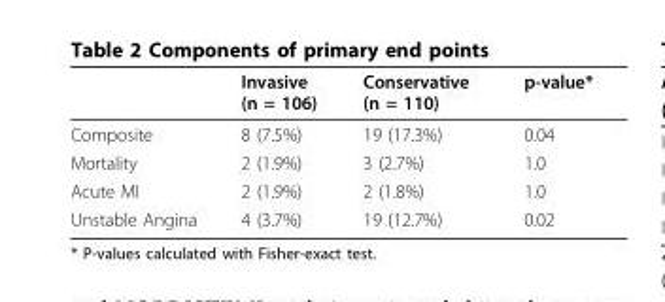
<table><thead><tr><td></td><td>Invasive (n = 106)</td><td>Conservative (n = 110)</td><td>p-value*</td></tr></thead><tbody><tr><td>Composite</td><td>8 (7.5%)</td><td>19 (17.3%)</td><td>0.04</td></tr><tr><td>Mortality</td><td>2 (1.9%)</td><td>3 (2.7%)</td><td>1.0</td></tr><tr><td>Acute MI</td><td>2 (1.9%)</td><td>2 (1.8%)</td><td>1.0</td></tr><tr><td>Unstable Angina</td><td>4 (3.7%)</td><td>19 (12.7%)</td><td>0.02</td></tr></tbody></table>